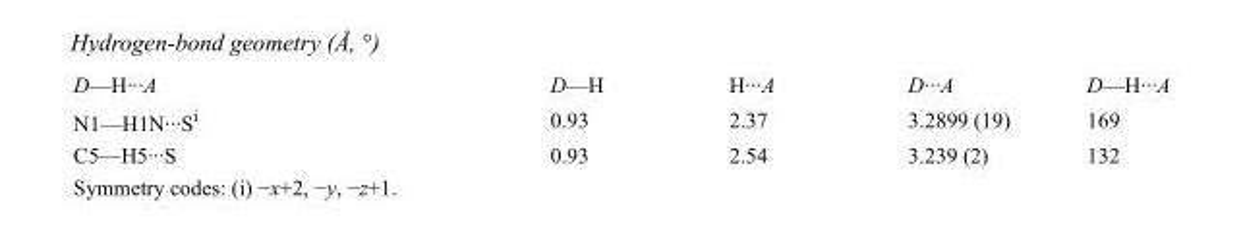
<table><tbody><tr><td>D—H···A</td><td>D—H</td><td>H···A</td><td>D···A</td><td>D—H···A</td></tr><tr><td>N1—H1N···S<sup>i</sup></td><td>0.93</td><td>2.37</td><td>3.2899 (19)</td><td>169</td></tr><tr><td>C5—H5···S</td><td>0.93</td><td>2.54</td><td>3.239 (2)</td><td>132</td></tr></tbody></table>